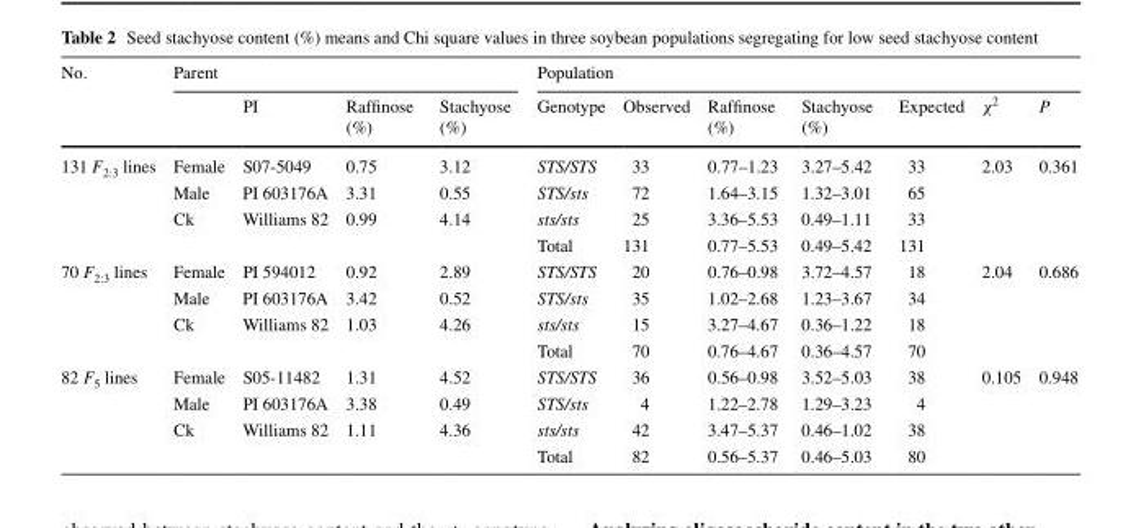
<table><thead><tr><td rowspan="2">No.</td><td colspan="4">Parent</td><td colspan="7">Population</td></tr><tr><td></td><td>PI</td><td>Raffinose (%)</td><td>Stachyose (%)</td><td>Genotype</td><td>Observed</td><td>Raffinose (%)</td><td>Stachyose (%)</td><td>Expected</td><td>χ<sup>2</sup></td><td>P</td></tr></thead><tbody><tr><td rowspan="4">131 F<sub>2:3</sub> lines</td><td>Female</td><td>S07-5049</td><td>0.75</td><td>3.12</td><td>STS/STS</td><td>33</td><td>0.77–1.23</td><td>3.27–5.42</td><td>33</td><td>2.03</td><td>0.361</td></tr><tr><td>Male</td><td>PI 603176A</td><td>3.31</td><td>0.55</td><td>STS/sts</td><td>72</td><td>1.64–3.15</td><td>1.32–3.01</td><td>65</td><td></td><td></td></tr><tr><td>Ck</td><td>Williams 82</td><td>0.99</td><td>4.14</td><td>sts/sts</td><td>25</td><td>3.36–5.53</td><td>0.49–1.11</td><td>33</td><td></td><td></td></tr><tr><td></td><td></td><td></td><td></td><td>Total</td><td>131</td><td>0.77–5.53</td><td>0.49–5.42</td><td>131</td><td></td><td></td></tr><tr><td rowspan="4">70 F<sub>2:3</sub> lines</td><td>Female</td><td>PI 594012</td><td>0.92</td><td>2.89</td><td>STS/STS</td><td>20</td><td>0.76–0.98</td><td>3.72–4.57</td><td>18</td><td>2.04</td><td>0.686</td></tr><tr><td>Male</td><td>PI 603176A</td><td>3.42</td><td>0.52</td><td>STS/sts</td><td>35</td><td>1.02–2.68</td><td>1.23–3.67</td><td>34</td><td></td><td></td></tr><tr><td>Ck</td><td>Williams 82</td><td>1.03</td><td>4.26</td><td>sts/sts</td><td>15</td><td>3.27–4.67</td><td>0.36–1.22</td><td>18</td><td></td><td></td></tr><tr><td></td><td></td><td></td><td></td><td>Total</td><td>70</td><td>0.76–4.67</td><td>0.36–4.57</td><td>70</td><td></td><td></td></tr><tr><td rowspan="4">82 F<sub>5</sub> lines</td><td>Female</td><td>S05-11482</td><td>1.31</td><td>4.52</td><td>STS/STS</td><td>36</td><td>0.56–0.98</td><td>3.52–5.03</td><td>38</td><td>0.105</td><td>0.948</td></tr><tr><td>Male</td><td>PI 603176A</td><td>3.38</td><td>0.49</td><td>STS/sts</td><td>4</td><td>1.22–2.78</td><td>1.29–3.23</td><td>4</td><td></td><td></td></tr><tr><td>Ck</td><td>Williams 82</td><td>1.11</td><td>4.36</td><td>sts/sts</td><td>42</td><td>3.47–5.37</td><td>0.46–1.02</td><td>38</td><td></td><td></td></tr><tr><td></td><td></td><td></td><td></td><td>Total</td><td>82</td><td>0.56–5.37</td><td>0.46–5.03</td><td>80</td><td></td><td></td></tr></tbody></table>